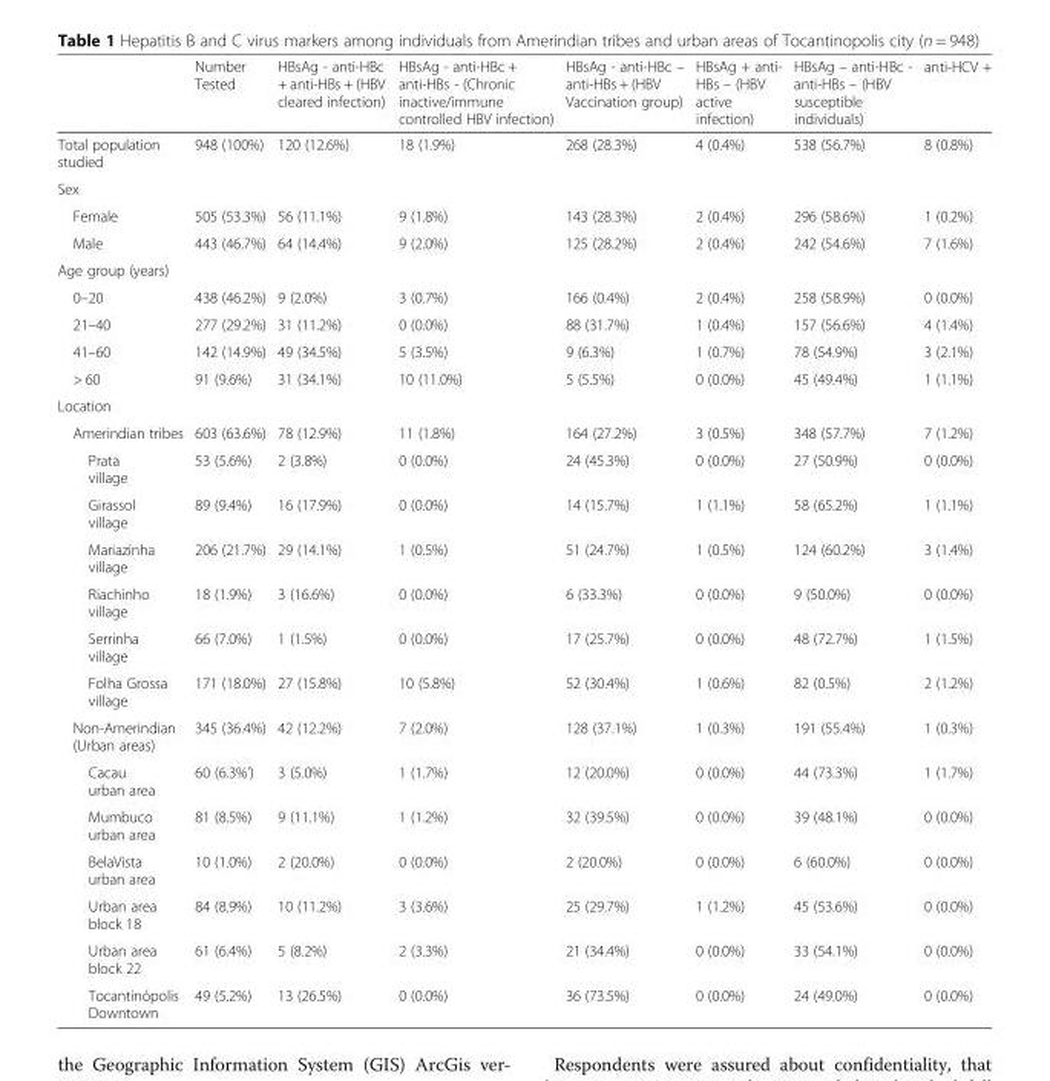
<table><thead><tr><td></td><td>Number Tested</td><td>HBsAg - anti-HBc + anti-HBs + (HBV cleared infection)</td><td>HBsAg - anti-HBc + anti-HBs - (Chronic inactive/immune controlled HBV infection)</td><td>HBsAg - anti-HBc – anti-HBs + (HBV Vaccination group)</td><td>HBsAg + anti- HBs – (HBV active infection)</td><td>HBsAg – anti-HBc - anti-HBs – (HBV susceptible individuals)</td><td>anti-HCV +</td></tr></thead><tbody><tr><td>Total population studied</td><td>948 (100%)</td><td>120 (12.6%)</td><td>18 (1.9%)</td><td>268 (28.3%)</td><td>4 (0.4%)</td><td>538 (56.7%)</td><td>8 (0.8%)</td></tr><tr><td colspan="8">Sex</td></tr><tr><td>Female</td><td>505 (53.3%)</td><td>56 (11.1%)</td><td>9 (1.8%)</td><td>143 (28.3%)</td><td>2 (0.4%)</td><td>296 (58.6%)</td><td>1 (0.2%)</td></tr><tr><td>Male</td><td>443 (46.7%)</td><td>64 (14.4%)</td><td>9 (2.0%)</td><td>125 (28.2%)</td><td>2 (0.4%)</td><td>242 (54.6%)</td><td>7 (1.6%)</td></tr><tr><td colspan="8">Age group (years)</td></tr><tr><td>0–20</td><td>438 (46.2%)</td><td>9 (2.0%)</td><td>3 (0.7%)</td><td>166 (0.4%)</td><td>2 (0.4%)</td><td>258 (58.9%)</td><td>0 (0.0%)</td></tr><tr><td>21–40</td><td>277 (29.2%)</td><td>31 (11.2%)</td><td>0 (0.0%)</td><td>88 (31.7%)</td><td>1 (0.4%)</td><td>157 (56.6%)</td><td>4 (1.4%)</td></tr><tr><td>41–60</td><td>142 (14.9%)</td><td>49 (34.5%)</td><td>5 (3.5%)</td><td>9 (6.3%)</td><td>1 (0.7%)</td><td>78 (54.9%)</td><td>3 (2.1%)</td></tr><tr><td>&gt; 60</td><td>91 (9.6%)</td><td>31 (34.1%)</td><td>10 (11.0%)</td><td>5 (5.5%)</td><td>0 (0.0%)</td><td>45 (49.4%)</td><td>1 (1.1%)</td></tr><tr><td colspan="8">Location</td></tr><tr><td>Amerindian tribes</td><td>603 (63.6%)</td><td>78 (12.9%)</td><td>11 (1.8%)</td><td>164 (27.2%)</td><td>3 (0.5%)</td><td>348 (57.7%)</td><td>7 (1.2%)</td></tr><tr><td>Prata village</td><td>53 (5.6%)</td><td>2 (3.8%)</td><td>0 (0.0%)</td><td>24 (45.3%)</td><td>0 (0.0%)</td><td>27 (50.9%)</td><td>0 (0.0%)</td></tr><tr><td>Girassol village</td><td>89 (9.4%)</td><td>16 (17.9%)</td><td>0 (0.0%)</td><td>14 (15.7%)</td><td>1 (1.1%)</td><td>58 (65.2%)</td><td>1 (1.1%)</td></tr><tr><td>Mariazinha village</td><td>206 (21.7%)</td><td>29 (14.1%)</td><td>1 (0.5%)</td><td>51 (24.7%)</td><td>1 (0.5%)</td><td>124 (60.2%)</td><td>3 (1.4%)</td></tr><tr><td>Riachinho village</td><td>18 (1.9%)</td><td>3 (16.6%)</td><td>0 (0.0%)</td><td>6 (33.3%)</td><td>0 (0.0%)</td><td>9 (50.0%)</td><td>0 (0.0%)</td></tr><tr><td>Serrinha village</td><td>66 (7.0%)</td><td>1 (1.5%)</td><td>0 (0.0%)</td><td>17 (25.7%)</td><td>0 (0.0%)</td><td>48 (72.7%)</td><td>1 (1.5%)</td></tr><tr><td>Folha Grossa village</td><td>171 (18.0%)</td><td>27 (15.8%)</td><td>10 (5.8%)</td><td>52 (30.4%)</td><td>1 (0.6%)</td><td>82 (0.5%)</td><td>2 (1.2%)</td></tr><tr><td>Non-Amerindian (Urban areas)</td><td>345 (36.4%)</td><td>42 (12.2%)</td><td>7 (2.0%)</td><td>128 (37.1%)</td><td>1 (0.3%)</td><td>191 (55.4%)</td><td>1 (0.3%)</td></tr><tr><td>Cacau urban area</td><td>60 (6.3%’)</td><td>3 (5.0%)</td><td>1 (1.7%)</td><td>12 (20.0%)</td><td>0 (0.0%)</td><td>44 (73.3%)</td><td>1 (1.7%)</td></tr><tr><td>Mumbuco urban area</td><td>81 (8.5%)</td><td>9 (11.1%)</td><td>1 (1.2%)</td><td>32 (39.5%)</td><td>0 (0.0%)</td><td>39 (48.1%)</td><td>0 (0.0%)</td></tr><tr><td>BelaVista urban area</td><td>10 (1.0%)</td><td>2 (20.0%)</td><td>0 (0.0%)</td><td>2 (20.0%)</td><td>0 (0.0%)</td><td>6 (60.0%)</td><td>0 (0.0%)</td></tr><tr><td>Urban area block 18</td><td>84 (8.9%)</td><td>10 (11.2%)</td><td>3 (3.6%)</td><td>25 (29.7%)</td><td>1 (1.2%)</td><td>45 (53.6%)</td><td>0 (0.0%)</td></tr><tr><td>Urban area block 22</td><td>61 (6.4%)</td><td>5 (8.2%)</td><td>2 (3.3%)</td><td>21 (34.4%)</td><td>0 (0.0%)</td><td>33 (54.1%)</td><td>0 (0.0%)</td></tr><tr><td>Tocantinópolis Downtown</td><td>49 (5.2%)</td><td>13 (26.5%)</td><td>0 (0.0%)</td><td>36 (73.5%)</td><td>0 (0.0%)</td><td>24 (49.0%)</td><td>0 (0.0%)</td></tr></tbody></table>